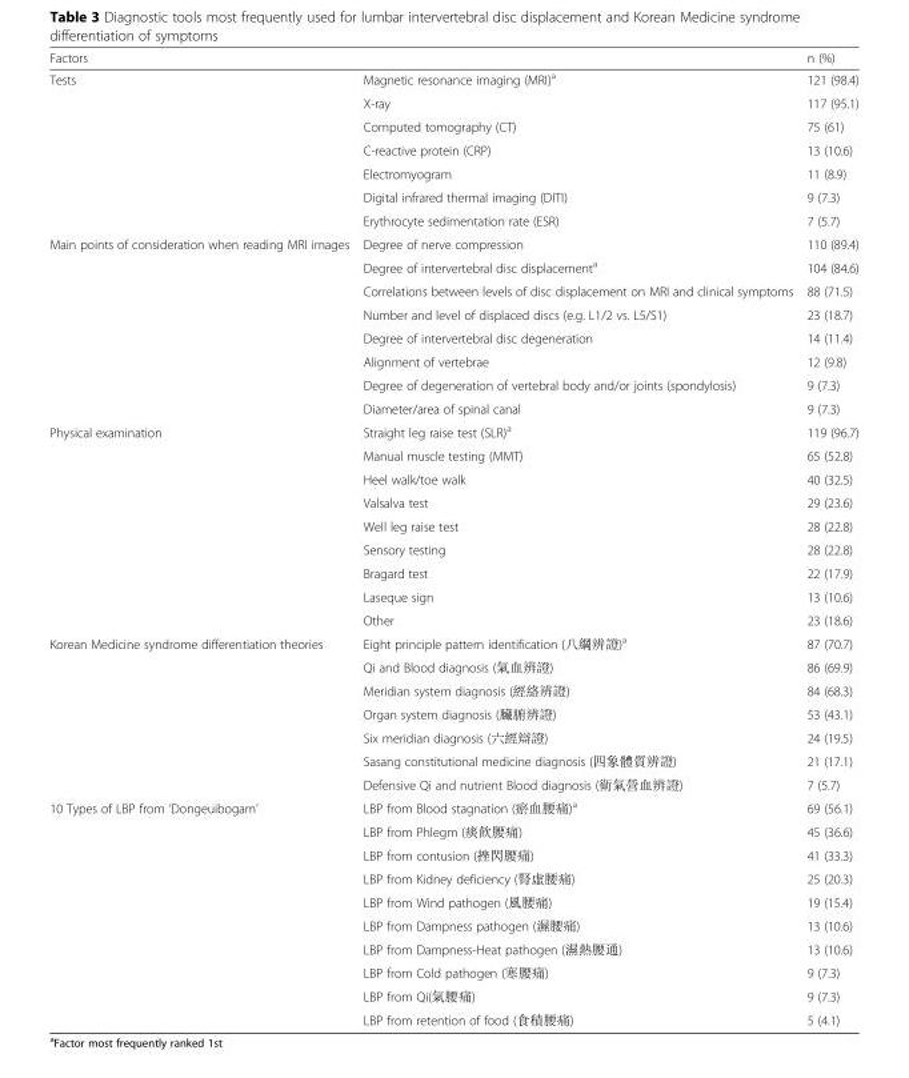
<table><thead><tr><td colspan="2">Factors</td><td rowspan="2">n (%) 121 (98.4)</td></tr><tr><td>Tests</td><td>Magnetic resonance imaging (MRI)<sup>a</sup></td></tr></thead><tbody><tr><td></td><td>X-ray</td><td>117 (95.1)</td></tr><tr><td></td><td>Computed tomography (CT)</td><td>75 (61)</td></tr><tr><td></td><td>C-reactive protein (CRP)</td><td>13 (10.6)</td></tr><tr><td></td><td>Electromyogram</td><td>11 (8.9)</td></tr><tr><td></td><td>Digital infrared thermal imaging (DITI)</td><td>9 (7.3)</td></tr><tr><td></td><td>Erythrocyte sedimentation rate (ESR)</td><td>7 (5.7)</td></tr><tr><td rowspan="8">Main points of consideration when reading MRI images</td><td>Degree of nerve compression</td><td>110 (89.4)</td></tr><tr><td>Degree of intervertebral disc displacement<sup>a</sup></td><td>104 (84.6)</td></tr><tr><td>Correlations between levels of disc displacement on MRI and clinical symptoms</td><td>88 (71.5)</td></tr><tr><td>Number and level of displaced discs (e.g. L1/2 vs. L5/S1)</td><td>23 (18.7)</td></tr><tr><td>Degree of intervertebral disc degeneration</td><td>14 (11.4)</td></tr><tr><td>Alignment of vertebrae</td><td>12 (9.8)</td></tr><tr><td>Degree of degeneration of vertebral body and/or joints (spondylosis)</td><td>9 (7.3)</td></tr><tr><td>Diameter/area of spinal canal</td><td>9 (7.3)</td></tr><tr><td rowspan="9">Physical examination</td><td>Straight leg raise test (SLR)<sup>a</sup></td><td>119 (96.7)</td></tr><tr><td>Manual muscle testing (MMT)</td><td>65 (52.8)</td></tr><tr><td>Heel walk/toe walk</td><td>40 (32.5)</td></tr><tr><td>Valsalva test</td><td>29 (23.6)</td></tr><tr><td>Well leg raise test</td><td>28 (22.8)</td></tr><tr><td>Sensory testing</td><td>28 (22.8)</td></tr><tr><td>Bragard test</td><td>22 (17.9)</td></tr><tr><td>Laseque sign</td><td>13 (10.6)</td></tr><tr><td>Other</td><td>23 (18.6)</td></tr><tr><td rowspan="7">Korean Medicine syndrome differentiation theories</td><td>Eight principle pattern identification (八綱辨證)<sup>a</sup></td><td>87 (70.7)</td></tr><tr><td>Qi and Blood diagnosis (氣血辨證)</td><td>86 (69.9)</td></tr><tr><td>Meridian system diagnosis (經絡辨證)</td><td>84 (68.3)</td></tr><tr><td>Organ system diagnosis (臟腑辨證)</td><td>53 (43.1)</td></tr><tr><td>Six meridian diagnosis (六經辯證)</td><td>24 (19.5)</td></tr><tr><td>Sasang constitutional medicine diagnosis (四象體質辨證)</td><td>21 (17.1)</td></tr><tr><td>Defensive Qi and nutrient Blood diagnosis (衛氣營血辨證)</td><td>7 (5.7)</td></tr><tr><td rowspan="10">10 Types of LBP from ‘Dongeuibogam’</td><td>LBP from Blood stagnation (瘀血腰痛)<sup>a</sup></td><td>69 (56.1)</td></tr><tr><td>LBP from Phlegm (痰飮腰痛)</td><td>45 (36.6)</td></tr><tr><td>LBP from contusion (挫閃腰痛)</td><td>41 (33.3)</td></tr><tr><td>LBP from Kidney deficiency (腎虛腰痛)</td><td>25 (20.3)</td></tr><tr><td>LBP from Wind pathogen (風腰痛)</td><td>19 (15.4)</td></tr><tr><td>LBP from Dampness pathogen (濕腰痛)</td><td>13 (10.6)</td></tr><tr><td>LBP from Dampness-Heat pathogen (濕熱腰通)</td><td>13 (10.6)</td></tr><tr><td>LBP from Cold pathogen (寒腰痛)</td><td>9 (7.3)</td></tr><tr><td>LBP from Qi(氣腰痛)</td><td>9 (7.3)</td></tr><tr><td>LBP from retention of food (食積腰痛)</td><td>5 (4.1)</td></tr></tbody></table>